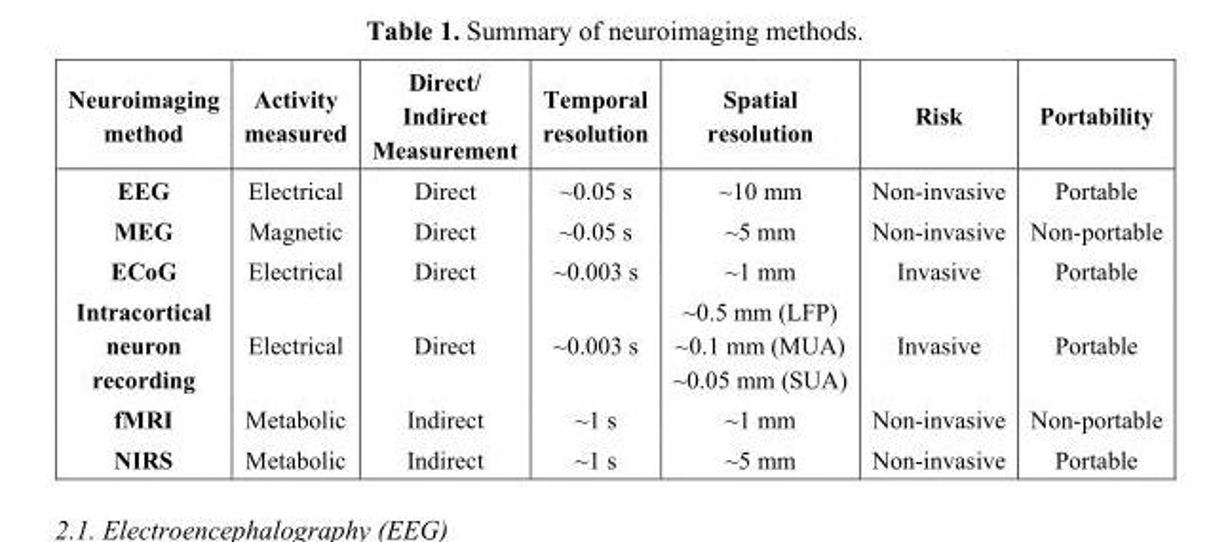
<table><thead><tr><td>Neuroimaging method</td><td>Activity measured</td><td>Direct/ Indirect Measurement</td><td>Temporal resolution</td><td>Spatial resolution</td><td>Risk</td><td>Portability</td></tr></thead><tbody><tr><td>EEG</td><td>Electrical</td><td>Direct</td><td>~0.05 s</td><td>~10 mm</td><td>Non-invasive</td><td>Portable</td></tr><tr><td>MEG</td><td>Magnetic</td><td>Direct</td><td>~0.05 s</td><td>~5 mm</td><td>Non-invasive</td><td>Non-portable</td></tr><tr><td>ECoG</td><td>Electrical</td><td>Direct</td><td>~0.003 s</td><td>~1 mm</td><td>Invasive</td><td>Portable</td></tr><tr><td rowspan="3">Intracortical neuron recording</td><td rowspan="3">Electrical</td><td rowspan="3">Direct</td><td rowspan="3">~0.003 s</td><td>~0.5 mm (LFP)</td><td rowspan="3">Invasive</td><td rowspan="3">Portable</td></tr><tr><td>~0.1 mm (MUA)</td></tr><tr><td>~0.05 mm (SUA)</td></tr><tr><td>fMRI</td><td>Metabolic</td><td>Indirect</td><td>~1 s</td><td>~1 mm</td><td>Non-invasive</td><td>Non-portable</td></tr><tr><td>NIRS</td><td>Metabolic</td><td>Indirect</td><td>~1 s</td><td>~5 mm</td><td>Non-invasive</td><td>Portable</td></tr></tbody></table>